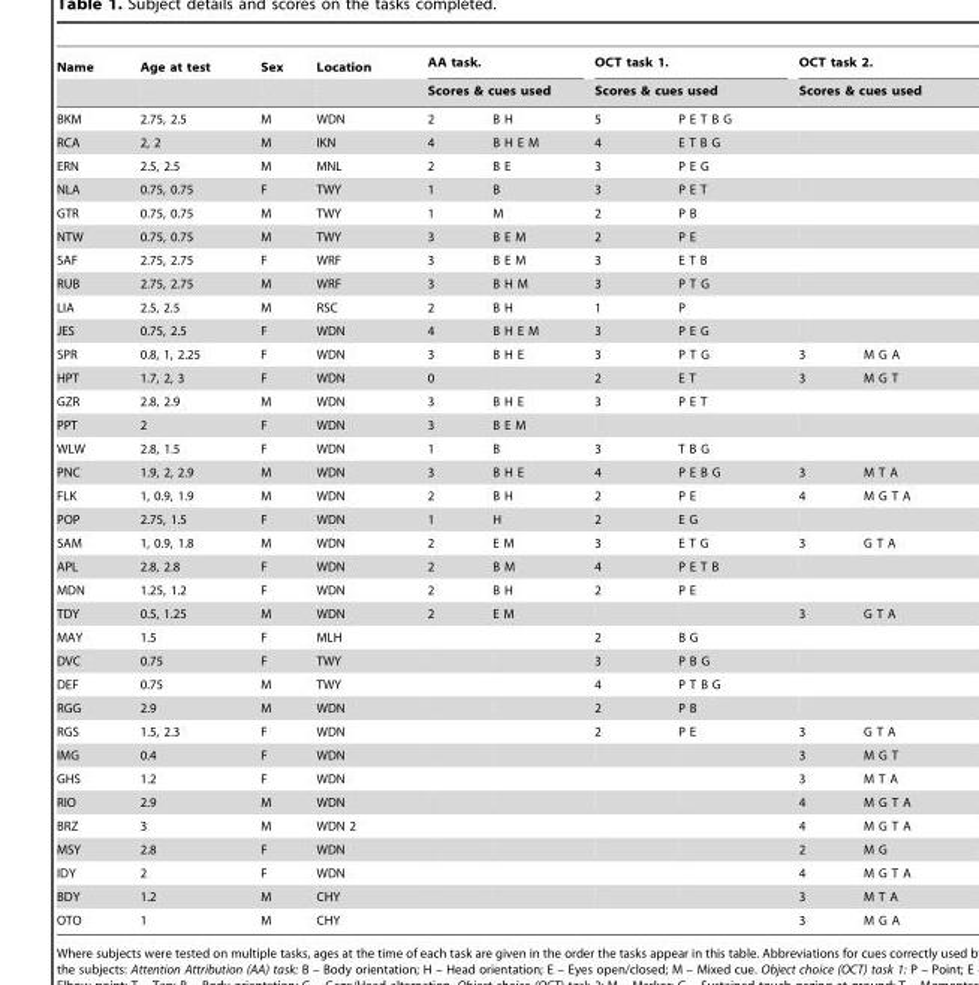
<table><thead><tr><td rowspan="3">Name BKM</td><td rowspan="3">Age at test 2.75, 2.5</td><td rowspan="3">Sex M</td><td rowspan="3">Location WDN</td><td rowspan="2" colspan="2">AA task. Scores &amp; cues used</td><td rowspan="2" colspan="2">OCT task 1. Scores &amp; cues used</td><td rowspan="2" colspan="2">OCT task 2. Scores &amp; cues used</td></tr><tr></tr><tr><td>2</td><td>B H</td><td>5</td><td>P E T B G</td><td></td><td></td></tr></thead><tbody><tr><td>RCA</td><td>2, 2</td><td>M</td><td>IKN</td><td>4</td><td>B H E M</td><td>4</td><td>E T B G</td><td></td><td></td></tr><tr><td>ERN</td><td>2.5, 2.5</td><td>M</td><td>MNL</td><td>2</td><td>B E</td><td>3</td><td>P E G</td><td></td><td></td></tr><tr><td>NLA</td><td>0.75, 0.75</td><td>F</td><td>TWY</td><td>1</td><td>B</td><td>3</td><td>P E T</td><td></td><td></td></tr><tr><td>GTR</td><td>0.75, 0.75</td><td>M</td><td>TWY</td><td>1</td><td>M</td><td>2</td><td>P B</td><td></td><td></td></tr><tr><td>NTW</td><td>0.75, 0.75</td><td>M</td><td>TWY</td><td>3</td><td>B E M</td><td>2</td><td>P E</td><td></td><td></td></tr><tr><td>SAF</td><td>2.75, 2.75</td><td>F</td><td>WRF</td><td>3</td><td>B E M</td><td>3</td><td>E T B</td><td></td><td></td></tr><tr><td>RUB</td><td>2.75, 2.75</td><td>M</td><td>WRF</td><td>3</td><td>B H M</td><td>3</td><td>P T G</td><td></td><td></td></tr><tr><td>LIA</td><td>2.5, 2.5</td><td>M</td><td>RSC</td><td>2</td><td>B H</td><td>1</td><td>P</td><td></td><td></td></tr><tr><td>JES</td><td>0.75, 2.5</td><td>F</td><td>WDN</td><td>4</td><td>B H E M</td><td>3</td><td>P E G</td><td></td><td></td></tr><tr><td>SPR</td><td>0.8, 1, 2.25</td><td>F</td><td>WDN</td><td>3</td><td>B H E</td><td>3</td><td>P T G</td><td>3</td><td>M G A</td></tr><tr><td>HPT</td><td>1.7, 2, 3</td><td>F</td><td>WDN</td><td>0</td><td></td><td>2</td><td>E T</td><td>3</td><td>M G T</td></tr><tr><td>GZR</td><td>2.8, 2.9</td><td>M</td><td>WDN</td><td>3</td><td>B H E</td><td>3</td><td>P E T</td><td></td><td></td></tr><tr><td>PPT</td><td>2</td><td>F</td><td>WDN</td><td>3</td><td>B E M</td><td></td><td></td><td></td><td></td></tr><tr><td>WLW</td><td>2.8, 1.5</td><td>F</td><td>WDN</td><td>1</td><td>B</td><td>3</td><td>T B G</td><td></td><td></td></tr><tr><td>PNC</td><td>1.9, 2, 2.9</td><td>M</td><td>WDN</td><td>3</td><td>B H E</td><td>4</td><td>P E B G</td><td>3</td><td>M T A</td></tr><tr><td>FLK</td><td>1, 0.9, 1.9</td><td>M</td><td>WDN</td><td>2</td><td>B H</td><td>2</td><td>P E</td><td>4</td><td>M G T A</td></tr><tr><td>POP</td><td>2.75, 1.5</td><td>F</td><td>WDN</td><td>1</td><td>H</td><td>2</td><td>E G</td><td></td><td></td></tr><tr><td>SAM</td><td>1, 0.9, 1.8</td><td>M</td><td>WDN</td><td>2</td><td>E M</td><td>3</td><td>E T G</td><td>3</td><td>G T A</td></tr><tr><td>APL</td><td>2.8, 2.8</td><td>F</td><td>WDN</td><td>2</td><td>B M</td><td>4</td><td>P E T B</td><td></td><td></td></tr><tr><td>MDN</td><td>1.25, 1.2</td><td>F</td><td>WDN</td><td>2</td><td>B H</td><td>2</td><td>P E</td><td></td><td></td></tr><tr><td>TDY</td><td>0.5, 1.25</td><td>M</td><td>WDN</td><td>2</td><td>E M</td><td></td><td></td><td>3</td><td>G T A</td></tr><tr><td>MAY</td><td>1.5</td><td>F</td><td>MLH</td><td></td><td></td><td>2</td><td>B G</td><td></td><td></td></tr><tr><td>DVC</td><td>0.75</td><td>F</td><td>TWY</td><td></td><td></td><td>3</td><td>P B G</td><td></td><td></td></tr><tr><td>DEF</td><td>0.75</td><td>M</td><td>TWY</td><td></td><td></td><td>4</td><td>P T B G</td><td></td><td></td></tr><tr><td>RGG</td><td>2.9</td><td>M</td><td>WDN</td><td></td><td></td><td>2</td><td>P B</td><td></td><td></td></tr><tr><td>RGS</td><td>1.5, 2.3</td><td>F</td><td>WDN</td><td></td><td></td><td>2</td><td>P E</td><td>3</td><td>G T A</td></tr><tr><td>IMG</td><td>0.4</td><td>F</td><td>WDN</td><td></td><td></td><td></td><td></td><td>3</td><td>M G T</td></tr><tr><td>GHS</td><td>1.2</td><td>F</td><td>WDN</td><td></td><td></td><td></td><td></td><td>3</td><td>M T A</td></tr><tr><td>RIO</td><td>2.9</td><td>M</td><td>WDN</td><td></td><td></td><td></td><td></td><td>4</td><td>M G T A</td></tr><tr><td>BRZ</td><td>3</td><td>M</td><td>WDN 2</td><td></td><td></td><td></td><td></td><td>4</td><td>M G T A</td></tr><tr><td>MSY</td><td>2.8</td><td>F</td><td>WDN</td><td></td><td></td><td></td><td></td><td>2</td><td>M G</td></tr><tr><td>IDY</td><td>2</td><td>F</td><td>WDN</td><td></td><td></td><td></td><td></td><td>4</td><td>M G T A</td></tr><tr><td>BDY</td><td>1.2</td><td>M</td><td>CHY</td><td></td><td></td><td></td><td></td><td>3</td><td>M T A</td></tr><tr><td>OTO</td><td>1</td><td>M</td><td>CHY</td><td></td><td></td><td></td><td></td><td>3</td><td>M G A</td></tr></tbody></table>